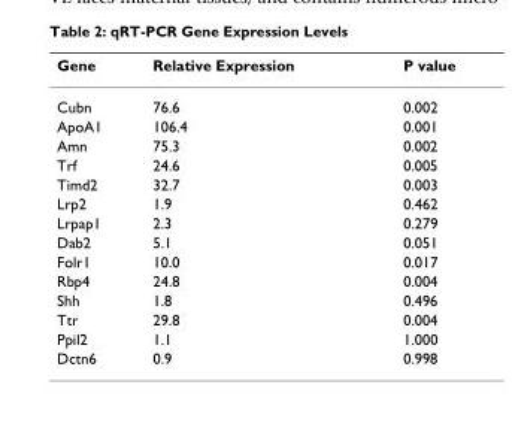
<table><thead><tr><td>Gene</td><td>Relative Expression</td><td>P value</td></tr></thead><tbody><tr><td>Cubn</td><td>76.6</td><td>0.002</td></tr><tr><td>ApoA1</td><td>106.4</td><td>0.001</td></tr><tr><td>Amn</td><td>75.3</td><td>0.002</td></tr><tr><td>Trf</td><td>24.6</td><td>0.005</td></tr><tr><td>Timd2</td><td>32.7</td><td>0.003</td></tr><tr><td>Lrp2</td><td>1.9</td><td>0.462</td></tr><tr><td>Lrpap1</td><td>2.3</td><td>0.279</td></tr><tr><td>Dab2</td><td>5.1</td><td>0.051</td></tr><tr><td>Folr1</td><td>10.0</td><td>0.017</td></tr><tr><td>Rbp4</td><td>24.8</td><td>0.004</td></tr><tr><td>Shh</td><td>1.8</td><td>0.496</td></tr><tr><td>Ttr</td><td>29.8</td><td>0.004</td></tr><tr><td>Ppil2</td><td>1.1</td><td>1.000</td></tr><tr><td>Dctn6</td><td>0.9</td><td>0.998</td></tr></tbody></table>